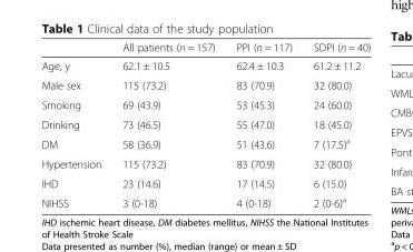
<table><thead><tr><td></td><td>All patients (n = 157)</td><td>PPI (n = 117)</td><td>SDPI (n = 40)</td></tr></thead><tbody><tr><td>Age, y</td><td>62.1 ± 10.5</td><td>62.4 ± 10.3</td><td>61.2 ± 11.2</td></tr><tr><td>Male sex</td><td>115 (73.2)</td><td>83 (70.9)</td><td>32 (80.0)</td></tr><tr><td>Smoking</td><td>69 (43.9)</td><td>53 (45.3)</td><td>24 (60.0)</td></tr><tr><td>Drinking</td><td>73 (46.5)</td><td>55 (47.0)</td><td>18 (45.0)</td></tr><tr><td>DM</td><td>58 (36.9)</td><td>51 (43.6)</td><td>7 (17.5)<sup>a</sup></td></tr><tr><td>Hypertension</td><td>115 (73.2)</td><td>83 (70.9)</td><td>32 (80.0)</td></tr><tr><td>IHD</td><td>23 (14.6)</td><td>17 (14.5)</td><td>6 (15.0)</td></tr><tr><td>NIHSS</td><td>3 (0-18)</td><td>4 (0-18)</td><td>2 (0-6)<sup>a</sup></td></tr></tbody></table>